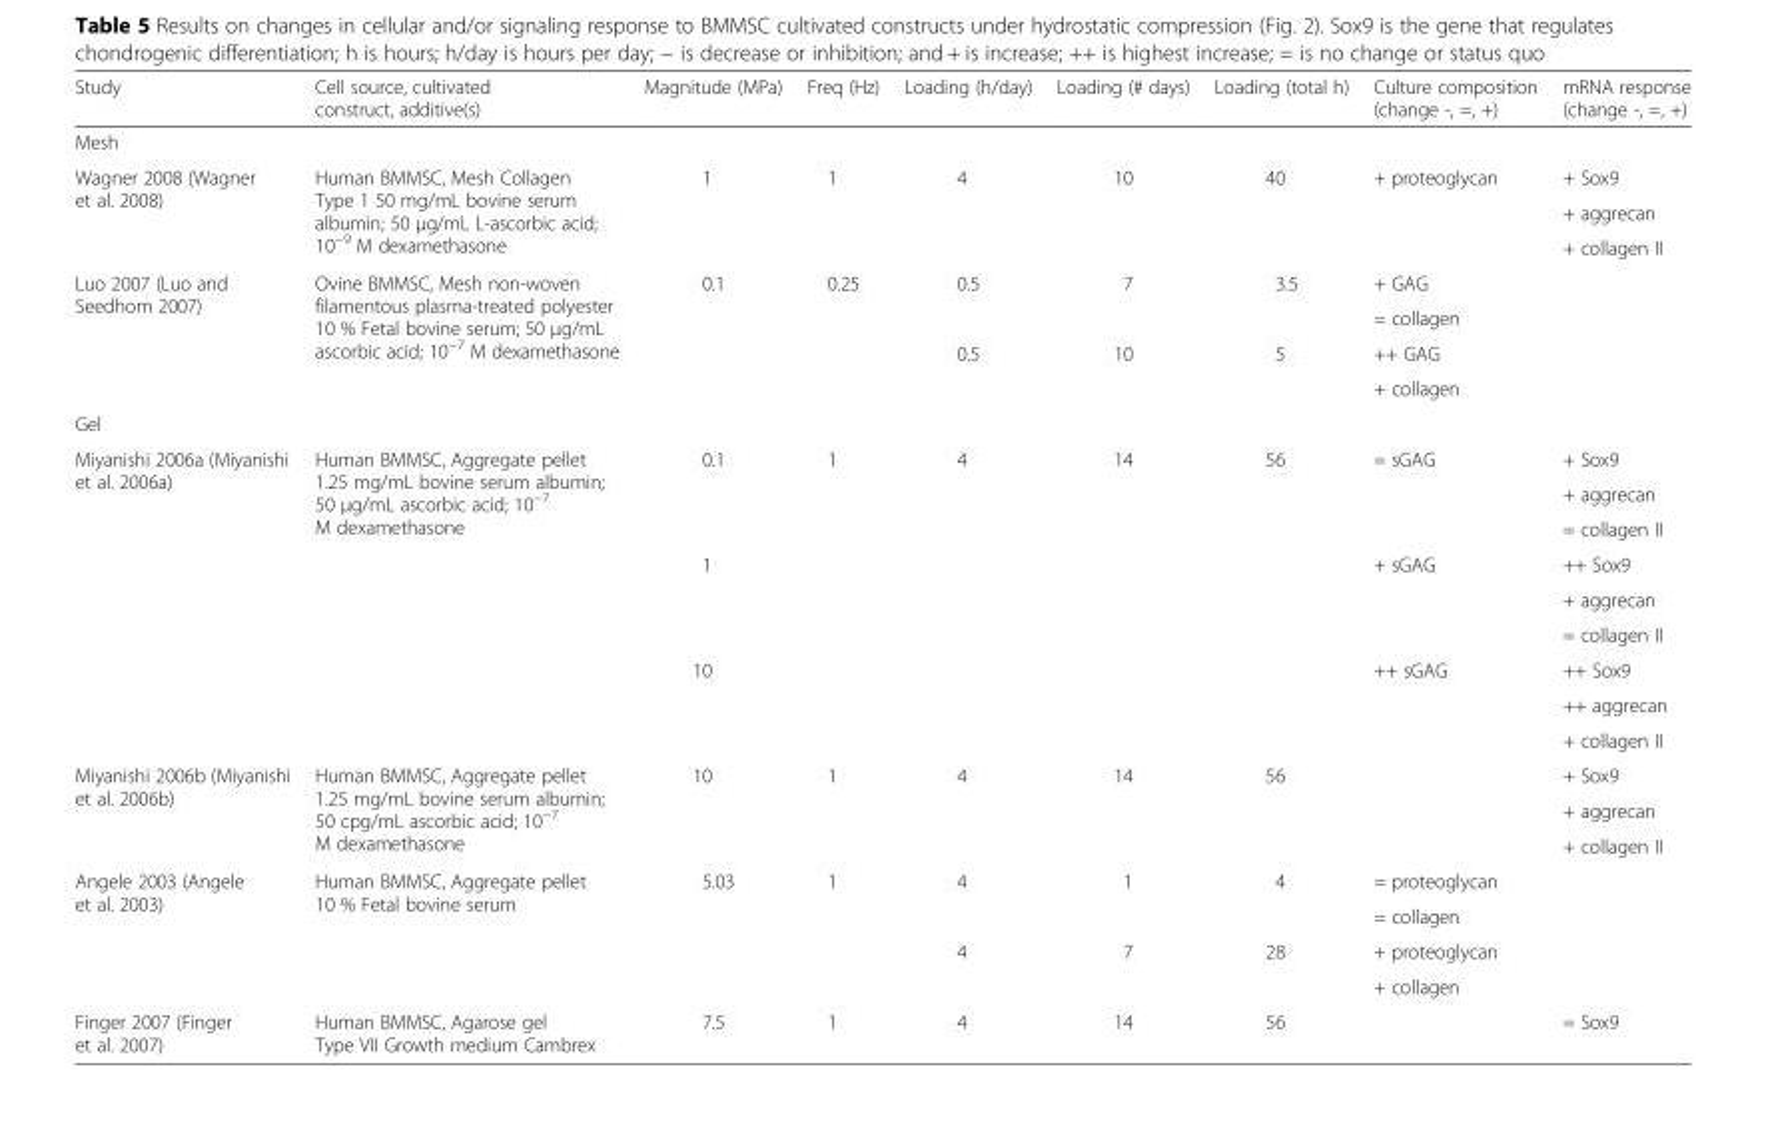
<table><thead><tr><td>Study</td><td>Cell source, cultivated construct, additive(s)</td><td>Magnitude (MPa)</td><td>Freq (Hz)</td><td>Loading (h/day)</td><td>Loading (# days)</td><td>Loading (total h)</td><td>Culture composition (change -, =, +)</td><td>mRNA response (change -, =, +)</td></tr></thead><tbody><tr><td colspan="9">Mesh</td></tr><tr><td rowspan="3">Wagner 2008 (Wagner et al. 2008)</td><td rowspan="3">Human BMMSC, Mesh Collagen Type 1 50 mg/mL bovine serum albumin; 50 μg/mL L-ascorbic acid; 10<sup>−9</sup> M dexamethasone</td><td rowspan="3">1</td><td rowspan="3">1</td><td rowspan="3">4</td><td rowspan="3">10</td><td rowspan="3">40</td><td rowspan="3">+ proteoglycan</td><td>+ Sox9</td></tr><tr><td>+ aggrecan</td></tr><tr><td>+ collagen II</td></tr><tr><td rowspan="4">Luo 2007 (Luo and Seedhom 2007)</td><td rowspan="4">Ovine BMMSC, Mesh non-woven filamentous plasma-treated polyester 10 % Fetal bovine serum; 50 μg/mL ascorbic acid; 10<sup>−7</sup> M dexamethasone</td><td rowspan="4">0.1</td><td rowspan="4">0.25</td><td rowspan="2">0.5</td><td rowspan="2">7</td><td rowspan="2">3.5</td><td>+ GAG</td><td rowspan="2"></td></tr><tr><td>= collagen</td></tr><tr><td rowspan="2">0.5</td><td rowspan="2">10</td><td rowspan="2">5</td><td>++ GAG</td><td rowspan="2"></td></tr><tr><td>+ collagen</td></tr><tr><td colspan="9">Gel</td></tr><tr><td rowspan="9">Miyanishi 2006a (Miyanishi et al. 2006a)</td><td rowspan="9">Human BMMSC, Aggregate pellet 1.25 mg/mL bovine serum albumin; 50 μg/mL ascorbic acid; 10<sup>−7</sup> M dexamethasone</td><td rowspan="3">0.1</td><td rowspan="9">1</td><td rowspan="9">4</td><td rowspan="9">14</td><td rowspan="9">56</td><td rowspan="3">= sGAG</td><td>+ Sox9</td></tr><tr><td>+ aggrecan</td></tr><tr><td>= collagen II</td></tr><tr><td rowspan="3">1</td><td rowspan="3">+ sGAG</td><td>++ Sox9</td></tr><tr><td>+ aggrecan</td></tr><tr><td>= collagen II</td></tr><tr><td rowspan="3">10</td><td rowspan="3">++ sGAG</td><td>++ Sox9</td></tr><tr><td>++ aggrecan</td></tr><tr><td>+ collagen II</td></tr><tr><td rowspan="3">Miyanishi 2006b (Miyanishi et al. 2006b)</td><td rowspan="3">Human BMMSC, Aggregate pellet 1.25 mg/mL bovine serum albumin; 50 cpg/mL ascorbic acid; 10<sup>−7</sup> M dexamethasone</td><td rowspan="3">10</td><td rowspan="3">1</td><td rowspan="3">4</td><td rowspan="3">14</td><td rowspan="3">56</td><td rowspan="3"></td><td>+ Sox9</td></tr><tr><td>+ aggrecan</td></tr><tr><td>+ collagen II</td></tr><tr><td rowspan="4">Angele 2003 (Angele et al. 2003)</td><td rowspan="4">Human BMMSC, Aggregate pellet 10 % Fetal bovine serum</td><td rowspan="4">5.03</td><td rowspan="4">1</td><td rowspan="2">4</td><td rowspan="2">1</td><td rowspan="2">4</td><td>= proteoglycan</td><td rowspan="2"></td></tr><tr><td>= collagen</td></tr><tr><td rowspan="2">4</td><td rowspan="2">7</td><td rowspan="2">28</td><td>+ proteoglycan</td><td rowspan="2"></td></tr><tr><td>+ collagen</td></tr><tr><td>Finger 2007 (Finger et al. 2007)</td><td>Human BMMSC, Agarose gel Type VII Growth medium Cambrex</td><td>7.5</td><td>1</td><td>4</td><td>14</td><td>56</td><td></td><td>= Sox9</td></tr></tbody></table>